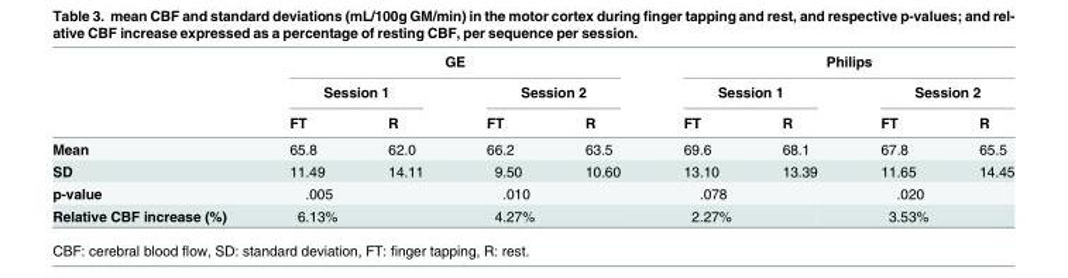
<table><thead><tr><td rowspan="3"></td><td colspan="4">GE</td><td colspan="4">Philips</td></tr><tr><td colspan="2">Session 1</td><td colspan="2">Session 2</td><td colspan="2">Session 1</td><td colspan="2">Session 2</td></tr><tr><td>FT</td><td>R</td><td>FT</td><td>R</td><td>FT</td><td>R</td><td>FT</td><td>R</td></tr></thead><tbody><tr><td>Mean</td><td>65.8</td><td>62.0</td><td>66.2</td><td>63.5</td><td>69.6</td><td>68.1</td><td>67.8</td><td>65.5</td></tr><tr><td>SD</td><td>11.49</td><td>14.11</td><td>9.50</td><td>10.60</td><td>13.10</td><td>13.39</td><td>11.65</td><td>14.45</td></tr><tr><td>p-value</td><td colspan="2">.005</td><td colspan="2">.010</td><td colspan="2">.078</td><td colspan="2">.020</td></tr><tr><td>Relative CBF increase (%)</td><td colspan="2">6.13%</td><td colspan="2">4.27%</td><td colspan="2">2.27%</td><td colspan="2">3.53%</td></tr></tbody></table>